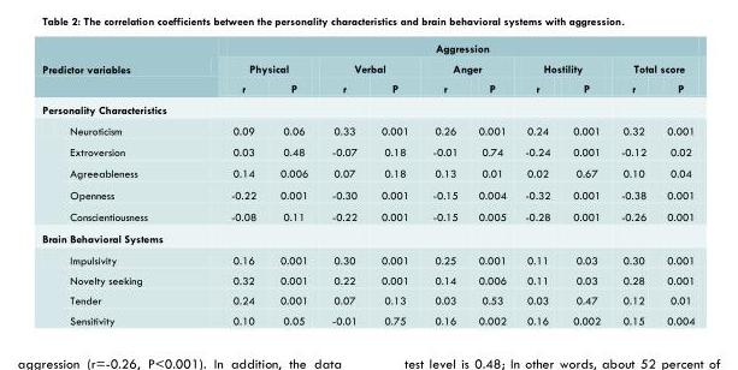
<table><thead><tr><td rowspan="3">Predictor variables</td><td colspan="10">Aggression</td></tr><tr><td colspan="2">Physical</td><td colspan="2">Verbal</td><td colspan="2">Anger</td><td colspan="2">Hostility</td><td colspan="2">Total score</td></tr><tr><td>r</td><td>P</td><td>r</td><td>P</td><td>r</td><td>P</td><td>r</td><td>P</td><td>r</td><td>P</td></tr></thead><tbody><tr><td colspan="11">Personality Characteristics</td></tr><tr><td>Neuroticism</td><td>0.09</td><td>0.06</td><td>0.33</td><td>0.001</td><td>0.26</td><td>0.001</td><td>0.24</td><td>0.001</td><td>0.32</td><td>0.001</td></tr><tr><td>Extroversion</td><td>0.03</td><td>0.48</td><td>-0.07</td><td>0.18</td><td>-0.01</td><td>0.74</td><td>-0.24</td><td>0.001</td><td>-0.12</td><td>0.02</td></tr><tr><td>Agreeableness</td><td>0.14</td><td>0.006</td><td>0.07</td><td>0.18</td><td>0.13</td><td>0.01</td><td>0.02</td><td>0.67</td><td>0.10</td><td>0.04</td></tr><tr><td>Openness</td><td>-0.22</td><td>0.001</td><td>-0.30</td><td>0.001</td><td>-0.15</td><td>0.004</td><td>-0.32</td><td>0.001</td><td>-0.38</td><td>0.001</td></tr><tr><td>Conscientiousness</td><td>-0.08</td><td>0.11</td><td>-0.22</td><td>0.001</td><td>-0.15</td><td>0.005</td><td>-0.28</td><td>0.001</td><td>-0.26</td><td>0.001</td></tr><tr><td colspan="11">Brain Behavioral Systems</td></tr><tr><td>Impulsivity</td><td>0.16</td><td>0.001</td><td>0.30</td><td>0.001</td><td>0.25</td><td>0.001</td><td>0.11</td><td>0.03</td><td>0.30</td><td>0.001</td></tr><tr><td>Novelty seeking</td><td>0.32</td><td>0.001</td><td>0.22</td><td>0.001</td><td>0.14</td><td>0.006</td><td>0.11</td><td>0.03</td><td>0.28</td><td>0.001</td></tr><tr><td>Tender</td><td>0.24</td><td>0.001</td><td>0.07</td><td>0.13</td><td>0.03</td><td>0.53</td><td>0.03</td><td>0.47</td><td>0.12</td><td>0.01</td></tr><tr><td>Sensitivity</td><td>0.10</td><td>0.05</td><td>-0.01</td><td>0.75</td><td>0.16</td><td>0.002</td><td>0.16</td><td>0.002</td><td>0.15</td><td>0.004</td></tr></tbody></table>